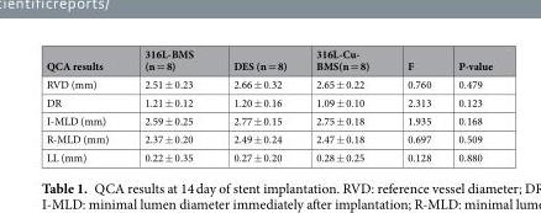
<table><thead><tr><td>QCA results</td><td>316L-BMS (n = 8)</td><td>DES (n = 8)</td><td>316L-Cu- BMS(n = 8)</td><td>F</td><td>P-value</td></tr></thead><tbody><tr><td>RVD (mm)</td><td>2.51 ± 0.23</td><td>2.66 ± 0.32</td><td>2.65 ± 0.22</td><td>0.760</td><td>0.479</td></tr><tr><td>DR</td><td>1.21 ± 0.12</td><td>1.20 ± 0.16</td><td>1.09 ± 0.10</td><td>2.313</td><td>0.123</td></tr><tr><td>I-MLD (mm)</td><td>2.59 ± 0.25</td><td>2.77 ± 0.15</td><td>2.75 ± 0.18</td><td>1.935</td><td>0.168</td></tr><tr><td>R-MLD (mm)</td><td>2.37 ± 0.20</td><td>2.49 ± 0.24</td><td>2.47 ± 0.18</td><td>0.697</td><td>0.509</td></tr><tr><td>LL (mm)</td><td>0.22 ± 0.35</td><td>0.27 ± 0.20</td><td>0.28 ± 0.25</td><td>0.128</td><td>0.880</td></tr></tbody></table>